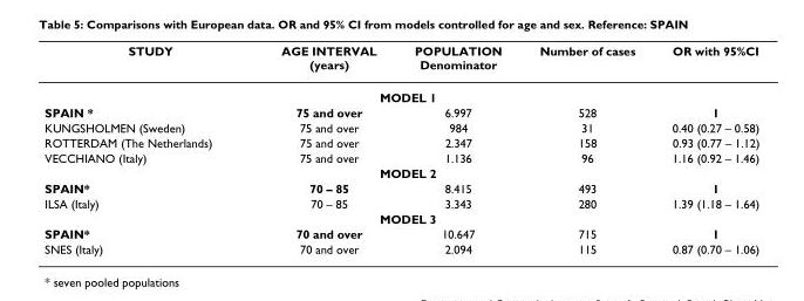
<table><thead><tr><td>STUDY</td><td>AGE INTERVAL (years)</td><td>POPULATION Denominator</td><td>Number of cases</td><td>OR with 95%CI</td></tr></thead><tbody><tr><td colspan="5">MODEL 1</td></tr><tr><td>SPAIN *</td><td>75 and over</td><td>6.997</td><td>528</td><td>1</td></tr><tr><td>KUNGSHOLMEN (Sweden)</td><td>75 and over</td><td>984</td><td>31</td><td>0.40 (0.27 – 0.58)</td></tr><tr><td>ROTTERDAM (The Netherlands)</td><td>75 and over</td><td>2.347</td><td>158</td><td>0.93 (0.77 – 1.12)</td></tr><tr><td>VECCHIANO (Italy)</td><td>75 and over</td><td>1.136</td><td>96</td><td>1.16 (0.92 – 1.46)</td></tr><tr><td colspan="5">MODEL 2</td></tr><tr><td>SPAIN*</td><td>70 – 85</td><td>8.415</td><td>493</td><td>1</td></tr><tr><td>ILSA (Italy)</td><td>70 – 85</td><td>3.343</td><td>280</td><td>1.39 (1.18 – 1.64)</td></tr><tr><td colspan="5">MODEL 3</td></tr><tr><td>SPAIN*</td><td>70 and over</td><td>10.647</td><td>715</td><td>1</td></tr><tr><td>SNES (Italy)</td><td>70 and over</td><td>2.094</td><td>115</td><td>0.87 (0.70 – 1.06)</td></tr></tbody></table>